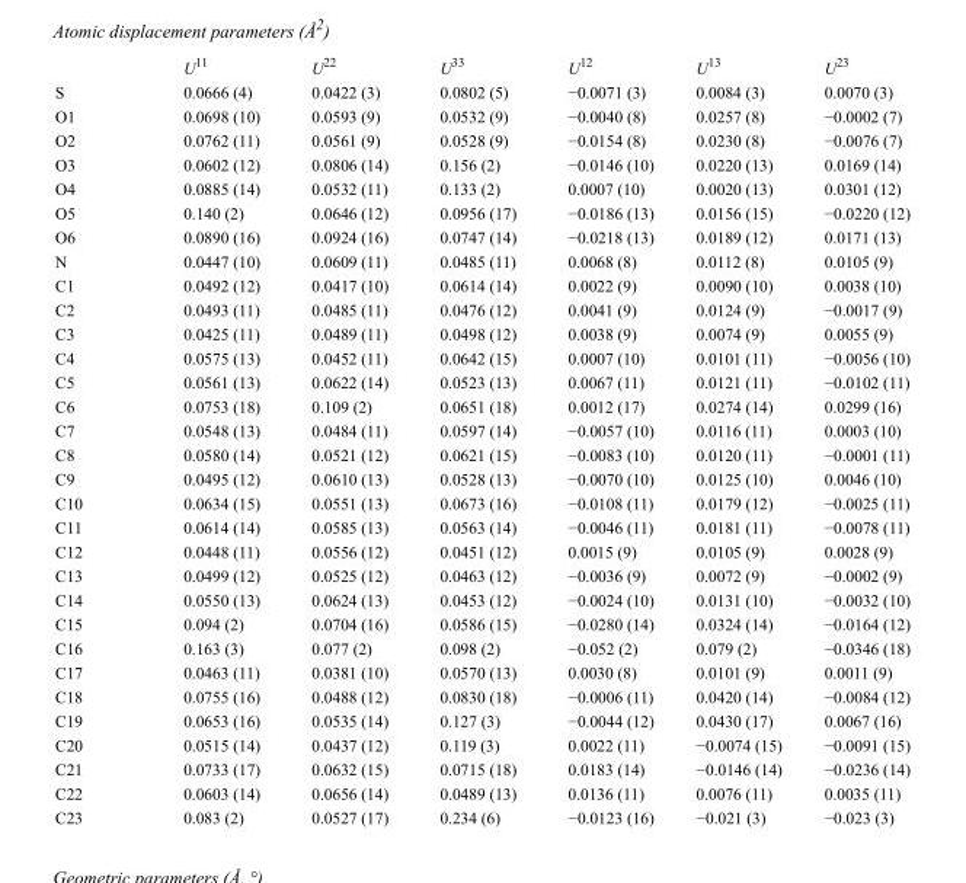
<table><thead><tr><td></td><td>U<sup>11</sup></td><td>U<sup>22</sup></td><td>U<sup>33</sup></td><td>U<sup>12</sup></td><td>U<sup>13</sup></td><td>U<sup>23</sup></td></tr></thead><tbody><tr><td>S</td><td>0.0666 (4)</td><td>0.0422 (3)</td><td>0.0802 (5)</td><td>−0.0071 (3)</td><td>0.0084 (3)</td><td>0.0070 (3)</td></tr><tr><td>O1</td><td>0.0698 (10)</td><td>0.0593 (9)</td><td>0.0532 (9)</td><td>−0.0040 (8)</td><td>0.0257 (8)</td><td>−0.0002 (7)</td></tr><tr><td>O2</td><td>0.0762 (11)</td><td>0.0561 (9)</td><td>0.0528 (9)</td><td>−0.0154 (8)</td><td>0.0230 (8)</td><td>−0.0076 (7)</td></tr><tr><td>O3</td><td>0.0602 (12)</td><td>0.0806 (14)</td><td>0.156 (2)</td><td>−0.0146 (10)</td><td>0.0220 (13)</td><td>0.0169 (14)</td></tr><tr><td>O4</td><td>0.0885 (14)</td><td>0.0532 (11)</td><td>0.133 (2)</td><td>0.0007 (10)</td><td>0.0020 (13)</td><td>0.0301 (12)</td></tr><tr><td>O5</td><td>0.140 (2)</td><td>0.0646 (12)</td><td>0.0956 (17)</td><td>−0.0186 (13)</td><td>0.0156 (15)</td><td>−0.0220 (12)</td></tr><tr><td>O6</td><td>0.0890 (16)</td><td>0.0924 (16)</td><td>0.0747 (14)</td><td>−0.0218 (13)</td><td>0.0189 (12)</td><td>0.0171 (13)</td></tr><tr><td>N</td><td>0.0447 (10)</td><td>0.0609 (11)</td><td>0.0485 (11)</td><td>0.0068 (8)</td><td>0.0112 (8)</td><td>0.0105 (9)</td></tr><tr><td>C1</td><td>0.0492 (12)</td><td>0.0417 (10)</td><td>0.0614 (14)</td><td>0.0022 (9)</td><td>0.0090 (10)</td><td>0.0038 (10)</td></tr><tr><td>C2</td><td>0.0493 (11)</td><td>0.0485 (11)</td><td>0.0476 (12)</td><td>0.0041 (9)</td><td>0.0124 (9)</td><td>−0.0017 (9)</td></tr><tr><td>C3</td><td>0.0425 (11)</td><td>0.0489 (11)</td><td>0.0498 (12)</td><td>0.0038 (9)</td><td>0.0074 (9)</td><td>0.0055 (9)</td></tr><tr><td>C4</td><td>0.0575 (13)</td><td>0.0452 (11)</td><td>0.0642 (15)</td><td>0.0007 (10)</td><td>0.0101 (11)</td><td>−0.0056 (10)</td></tr><tr><td>C5</td><td>0.0561 (13)</td><td>0.0622 (14)</td><td>0.0523 (13)</td><td>0.0067 (11)</td><td>0.0121 (11)</td><td>−0.0102 (11)</td></tr><tr><td>C6</td><td>0.0753 (18)</td><td>0.109 (2)</td><td>0.0651 (18)</td><td>0.0012 (17)</td><td>0.0274 (14)</td><td>0.0299 (16)</td></tr><tr><td>C7</td><td>0.0548 (13)</td><td>0.0484 (11)</td><td>0.0597 (14)</td><td>−0.0057 (10)</td><td>0.0116 (11)</td><td>0.0003 (10)</td></tr><tr><td>C8</td><td>0.0580 (14)</td><td>0.0521 (12)</td><td>0.0621 (15)</td><td>−0.0083 (10)</td><td>0.0120 (11)</td><td>−0.0001 (11)</td></tr><tr><td>C9</td><td>0.0495 (12)</td><td>0.0610 (13)</td><td>0.0528 (13)</td><td>−0.0070 (10)</td><td>0.0125 (10)</td><td>0.0046 (10)</td></tr><tr><td>C10</td><td>0.0634 (15)</td><td>0.0551 (13)</td><td>0.0673 (16)</td><td>−0.0108 (11)</td><td>0.0179 (12)</td><td>−0.0025 (11)</td></tr><tr><td>C11</td><td>0.0614 (14)</td><td>0.0585 (13)</td><td>0.0563 (14)</td><td>−0.0046 (11)</td><td>0.0181 (11)</td><td>−0.0078 (11)</td></tr><tr><td>C12</td><td>0.0448 (11)</td><td>0.0556 (12)</td><td>0.0451 (12)</td><td>0.0015 (9)</td><td>0.0105 (9)</td><td>0.0028 (9)</td></tr><tr><td>C13</td><td>0.0499 (12)</td><td>0.0525 (12)</td><td>0.0463 (12)</td><td>−0.0036 (9)</td><td>0.0072 (9)</td><td>−0.0002 (9)</td></tr><tr><td>C14</td><td>0.0550 (13)</td><td>0.0624 (13)</td><td>0.0453 (12)</td><td>−0.0024 (10)</td><td>0.0131 (10)</td><td>−0.0032 (10)</td></tr><tr><td>C15</td><td>0.094 (2)</td><td>0.0704 (16)</td><td>0.0586 (15)</td><td>−0.0280 (14)</td><td>0.0324 (14)</td><td>−0.0164 (12)</td></tr><tr><td>C16</td><td>0.163 (3)</td><td>0.077 (2)</td><td>0.098 (2)</td><td>−0.052 (2)</td><td>0.079 (2)</td><td>−0.0346 (18)</td></tr><tr><td>C17</td><td>0.0463 (11)</td><td>0.0381 (10)</td><td>0.0570 (13)</td><td>0.0030 (8)</td><td>0.0101 (9)</td><td>0.0011 (9)</td></tr><tr><td>C18</td><td>0.0755 (16)</td><td>0.0488 (12)</td><td>0.0830 (18)</td><td>−0.0006 (11)</td><td>0.0420 (14)</td><td>−0.0084 (12)</td></tr><tr><td>C19</td><td>0.0653 (16)</td><td>0.0535 (14)</td><td>0.127 (3)</td><td>−0.0044 (12)</td><td>0.0430 (17)</td><td>0.0067 (16)</td></tr><tr><td>C20</td><td>0.0515 (14)</td><td>0.0437 (12)</td><td>0.119 (3)</td><td>0.0022 (11)</td><td>−0.0074 (15)</td><td>−0.0091 (15)</td></tr><tr><td>C21</td><td>0.0733 (17)</td><td>0.0632 (15)</td><td>0.0715 (18)</td><td>0.0183 (14)</td><td>−0.0146 (14)</td><td>−0.0236 (14)</td></tr><tr><td>C22</td><td>0.0603 (14)</td><td>0.0656 (14)</td><td>0.0489 (13)</td><td>0.0136 (11)</td><td>0.0076 (11)</td><td>0.0035 (11)</td></tr><tr><td>C23</td><td>0.083 (2)</td><td>0.0527 (17)</td><td>0.234 (6)</td><td>−0.0123 (16)</td><td>−0.021 (3)</td><td>−0.023 (3)</td></tr></tbody></table>